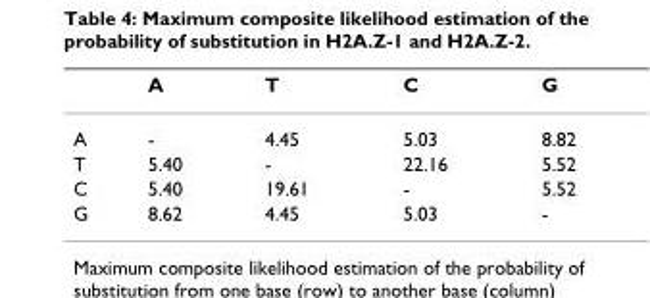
<table><thead><tr><td></td><td>A</td><td>T</td><td>C</td><td>G</td></tr></thead><tbody><tr><td>A</td><td>-</td><td>4.45</td><td>5.03</td><td>8.82</td></tr><tr><td>T</td><td>5.40</td><td>-</td><td>22.16</td><td>5.52</td></tr><tr><td>C</td><td>5.40</td><td>19.61</td><td>-</td><td>5.52</td></tr><tr><td>G</td><td>8.62</td><td>4.45</td><td>5.03</td><td>-</td></tr></tbody></table>